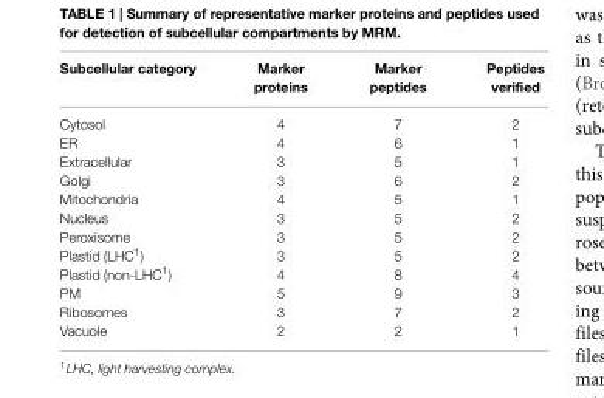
<table><thead><tr><td>Subcellular category</td><td>Marker proteins</td><td>Marker peptides</td><td>Peptides verified</td></tr></thead><tbody><tr><td>Cytosol</td><td>4</td><td>7</td><td>2</td></tr><tr><td>ER</td><td>4</td><td>6</td><td>1</td></tr><tr><td>Extracellular</td><td>3</td><td>5</td><td>1</td></tr><tr><td>Golgi</td><td>3</td><td>6</td><td>2</td></tr><tr><td>Mitochondria</td><td>4</td><td>5</td><td>1</td></tr><tr><td>Nucleus</td><td>3</td><td>5</td><td>2</td></tr><tr><td>Peroxisome</td><td>3</td><td>5</td><td>2</td></tr><tr><td>Plastid (LHC<sup>1</sup>)</td><td>3</td><td>5</td><td>2</td></tr><tr><td>Plastid (non-LHC<sup>1</sup>)</td><td>4</td><td>8</td><td>4</td></tr><tr><td>PM</td><td>5</td><td>9</td><td>3</td></tr><tr><td>Ribosomes</td><td>3</td><td>7</td><td>2</td></tr><tr><td>Vacuole</td><td>2</td><td>2</td><td>1</td></tr></tbody></table>